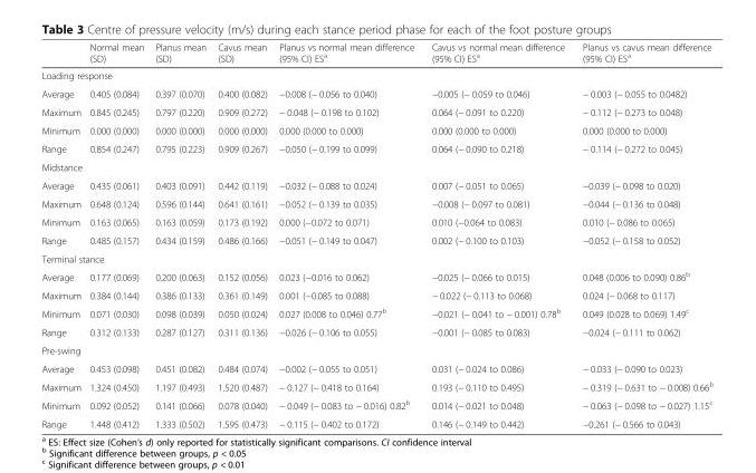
<table><thead><tr><td></td><td>Normal mean (SD)</td><td>Planus mean (SD)</td><td>Cavus mean (SD)</td><td>Planus vs normal mean difference (95% CI) ES<sup>a</sup></td><td>Cavus vs normal mean difference (95% CI) ES<sup>a</sup></td><td>Planus vs cavus mean difference (95% CI) ES<sup>a</sup></td></tr></thead><tbody><tr><td colspan="7">Loading response</td></tr><tr><td>Average</td><td>0.405 (0.084)</td><td>0.397 (0.070)</td><td>0.400 (0.082)</td><td>−0.008 (− 0.056 to 0.040)</td><td>−0.005 (− 0.059 to 0.046)</td><td>− 0.003 (− 0.055 to 0.0482)</td></tr><tr><td>Maximum</td><td>0.845 (0.245)</td><td>0.797 (0.220)</td><td>0.909 (0.272)</td><td>− 0.048 (− 0.198 to 0.102)</td><td>0.064 (− 0.091 to 0.220)</td><td>− 0.112 (− 0.273 to 0.048)</td></tr><tr><td>Minimum</td><td>0.000 (0.000)</td><td>0.000 (0.000)</td><td>0.000 (0.000)</td><td>0.000 (0.000 to 0.000)</td><td>0.000 (0.000 to 0.000)</td><td>0.000 (0.000 to 0.000)</td></tr><tr><td>Range</td><td>0.854 (0.247)</td><td>0.795 (0.223)</td><td>0.909 (0.267)</td><td>−0.050 (− 0.199 to 0.099)</td><td>0.064 (− 0.090 to 0.218)</td><td>− 0.114 (− 0.272 to 0.045)</td></tr><tr><td colspan="7">Midstance</td></tr><tr><td>Average</td><td>0.435 (0.061)</td><td>0.403 (0.091)</td><td>0.442 (0.119)</td><td>−0.032 (− 0.088 to 0.024)</td><td>0.007 (− 0.051 to 0.065)</td><td>−0.039 (− 0.098 to 0.020)</td></tr><tr><td>Maximum</td><td>0.648 (0.124)</td><td>0.596 (0.144)</td><td>0.641 (0.161)</td><td>−0.052 (− 0.139 to 0.035)</td><td>−0.008 (− 0.097 to 0.081)</td><td>−0.044 (− 0.136 to 0.048)</td></tr><tr><td>Minimum</td><td>0.163 (0.065)</td><td>0.163 (0.059)</td><td>0.173 (0.192)</td><td>0.000 (−0.072 to 0.071)</td><td>0.010 (−0.064 to 0.083)</td><td>0.010 (− 0.086 to 0.065)</td></tr><tr><td>Range</td><td>0.485 (0.157)</td><td>0.434 (0.159)</td><td>0.486 (0.166)</td><td>−0.051 (− 0.149 to 0.047)</td><td>0.002 (− 0.100 to 0.103)</td><td>−0.052 (− 0.158 to 0.052)</td></tr><tr><td colspan="7">Terminal stance</td></tr><tr><td>Average</td><td>0.177 (0.069)</td><td>0.200 (0.063)</td><td>0.152 (0.056)</td><td>0.023 (−0.016 to 0.062)</td><td>−0.025 (− 0.066 to 0.015)</td><td>0.048 (0.006 to 0.090) 0.86<sup>b</sup></td></tr><tr><td>Maximum</td><td>0.384 (0.144)</td><td>0.386 (0.133)</td><td>0.361 (0.149)</td><td>0.001 (−0.085 to 0.088)</td><td>− 0.022 (− 0.113 to 0.068)</td><td>0.024 (− 0.068 to 0.117)</td></tr><tr><td>Minimum</td><td>0.071 (0.030)</td><td>0.098 (0.039)</td><td>0.050 (0.024)</td><td>0.027 (0.008 to 0.046) 0.77<sup>b</sup></td><td>−0.021 (− 0.041 to − 0.001) 0.78<sup>b</sup></td><td>0.049 (0.028 to 0.069) 1.49<sup>c</sup></td></tr><tr><td>Range</td><td>0.312 (0.133)</td><td>0.287 (0.127)</td><td>0.311 (0.136)</td><td>−0.026 (− 0.106 to 0.055)</td><td>−0.001 (− 0.085 to 0.083)</td><td>−0.024 (− 0.111 to 0.062)</td></tr><tr><td colspan="7">Pre-swing</td></tr><tr><td>Average</td><td>0.453 (0.098)</td><td>0.451 (0.082)</td><td>0.484 (0.074)</td><td>−0.002 (− 0.055 to 0.051)</td><td>0.031 (− 0.024 to 0.086)</td><td>− 0.033 (− 0.090 to 0.023)</td></tr><tr><td>Maximum</td><td>1.324 (0.450)</td><td>1.197 (0.493)</td><td>1.520 (0.487)</td><td>− 0.127 (− 0.418 to 0.164)</td><td>0.193 (− 0.110 to 0.495)</td><td>− 0.319 (− 0.631 to − 0.008) 0.66<sup>b</sup></td></tr><tr><td>Minimum</td><td>0.092 (0.052)</td><td>0.141 (0.066)</td><td>0.078 (0.040)</td><td>− 0.049 (− 0.083 to − 0.016) 0.82<sup>b</sup></td><td>0.014 (− 0.021 to 0.048)</td><td>− 0.063 (− 0.098 to − 0.027) 1.15<sup>c</sup></td></tr><tr><td>Range</td><td>1.448 (0.412)</td><td>1.333 (0.502)</td><td>1.595 (0.473)</td><td>− 0.115 (− 0.402 to 0.172)</td><td>0.146 (− 0.149 to 0.442)</td><td>−0.261 (− 0.566 to 0.043)</td></tr></tbody></table>